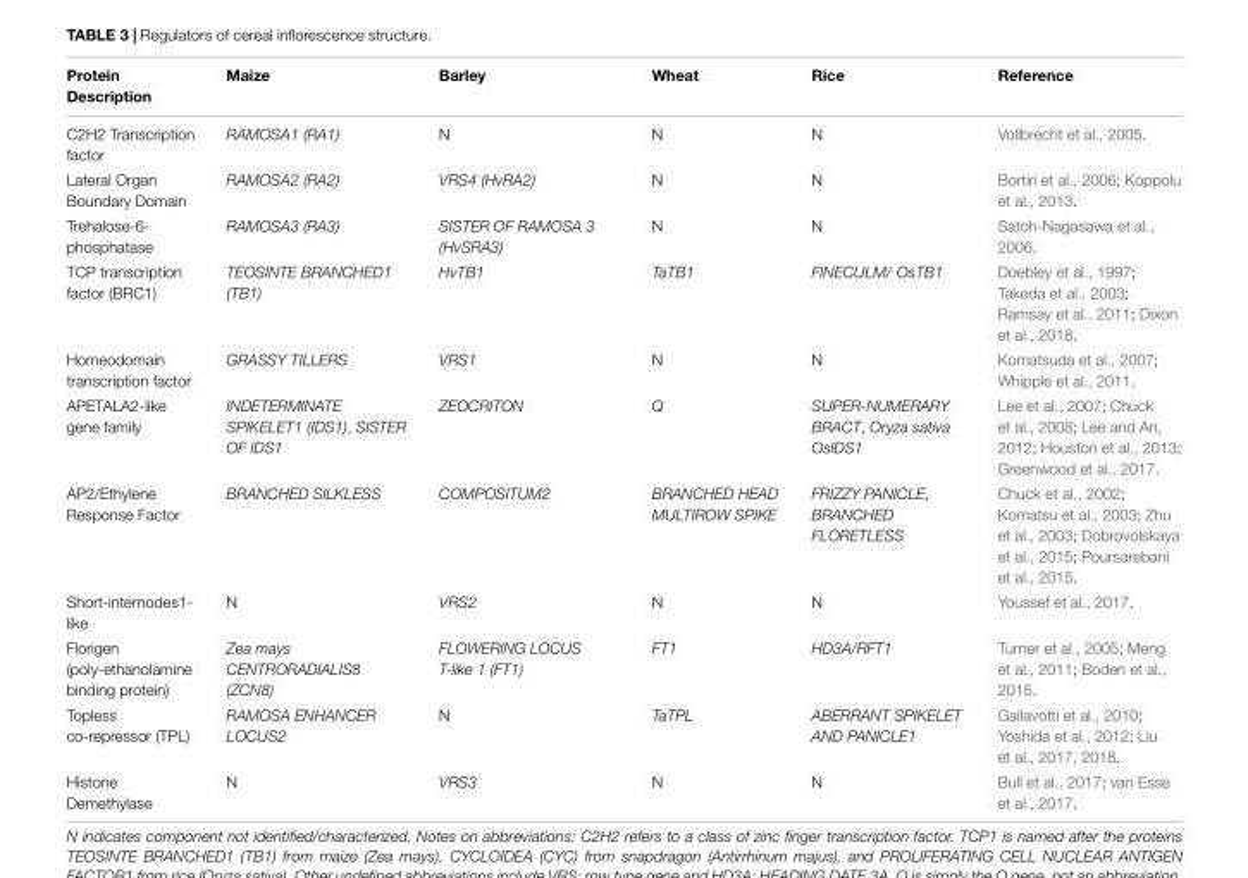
<table><thead><tr><td>Protein Description</td><td>Maize</td><td>Barley</td><td>Wheat</td><td>Rice</td><td>Reference</td></tr></thead><tbody><tr><td>C2H2 Transcription factor</td><td>RAMOSA1 (RA1)</td><td>N</td><td>N</td><td>N</td><td>Vollbrecht et al., 2005.</td></tr><tr><td>Lateral Organ Boundary Domain</td><td>RAMOSA2 (RA2)</td><td>VRS4 (HvRA2)</td><td>N</td><td>N</td><td>Bortiri et al., 2006; Koppolu et al., 2013.</td></tr><tr><td>Trehalose-6- phosphatase</td><td>RAMOSA3 (RA3)</td><td>SISTER OF RAMOSA 3 (HvSRA3)</td><td>N</td><td>N</td><td>Satoh-Nagasawa et al., 2006.</td></tr><tr><td>TCP transcription factor (BRC1)</td><td>TEOSINTE BRANCHED1 (TB1)</td><td>HvTB1</td><td>TaTB1</td><td>FINECULM/ OsTB1</td><td>Doebley et al., 1997; Takeda et al., 2003; Ramsay et al., 2011; Dixon et al., 2018.</td></tr><tr><td>Homeodomain transcription factor</td><td>GRASSY TILLERS</td><td>VRS1</td><td>N</td><td>N</td><td>Komatsuda et al., 2007; Whipple et al., 2011.</td></tr><tr><td>APETALA2-like gene family</td><td>INDETERMINATE SPIKELET1 (IDS1), SISTER OF IDS1</td><td>ZEOCRITON</td><td>Q</td><td>SUPER-NUMERARY BRACT, Oryza sativa OsIDS1</td><td>Lee et al., 2007; Chuck et al., 2008; Lee and An, 2012; Houston et al., 2013; Greenwood et al., 2017.</td></tr><tr><td>AP2/Ethylene Response Factor</td><td>BRANCHED SILKLESS</td><td>COMPOSITUM2</td><td>BRANCHED HEAD MULTIROW SPIKE</td><td>FRIZZY PANICLE, BRANCHED FLORETLESS</td><td>Chuck et al., 2002; Komatsu et al., 2003; Zhu et al., 2003; Dobrovolskaya et al., 2015; Poursarebani et al., 2015.</td></tr><tr><td>Short-internodes1- like</td><td>N</td><td>VRS2</td><td>N</td><td>N</td><td>Youssef et al., 2017.</td></tr><tr><td>Florigen (poly-ethanolamine binding protein)</td><td>Zea mays CENTRORADIALIS8 (ZCN8)</td><td>FLOWERING LOCUS T-like 1 (FT1)</td><td>FT1</td><td>HD3A/RFT1</td><td>Turner et al., 2005; Meng et al., 2011; Boden et al., 2015.</td></tr><tr><td>Topless co-repressor (TPL)</td><td>RAMOSA ENHANCER LOCUS2</td><td>N</td><td>TaTPL</td><td>ABERRANT SPIKELET AND PANICLE1</td><td>Gallavotti et al., 2010; Yoshida et al., 2012; Liu et al., 2017, 2018.</td></tr><tr><td>Histone Demethylase</td><td>N</td><td>VRS3</td><td>N</td><td>N</td><td>Bull et al., 2017; van Esse et al., 2017.</td></tr></tbody></table>